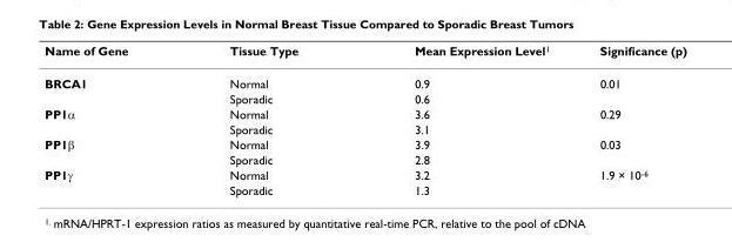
<table><thead><tr><td>Name of Gene</td><td>Tissue Type</td><td>Mean Expression Level<sup>1</sup></td><td>Significance (p)</td></tr></thead><tbody><tr><td rowspan="2">BRCA1</td><td>Normal</td><td>0.9</td><td>0.01</td></tr><tr><td>Sporadic</td><td>0.6</td><td></td></tr><tr><td rowspan="2">PP1α</td><td>Normal</td><td>3.6</td><td>0.29</td></tr><tr><td>Sporadic</td><td>3.1</td><td></td></tr><tr><td rowspan="2">PP1β</td><td>Normal</td><td>3.9</td><td>0.03</td></tr><tr><td>Sporadic</td><td>2.8</td><td></td></tr><tr><td rowspan="2">PP1γ</td><td>Normal</td><td>3.2</td><td>1.9 × 10<sup>-6</sup></td></tr><tr><td>Sporadic</td><td>1.3</td><td></td></tr></tbody></table>